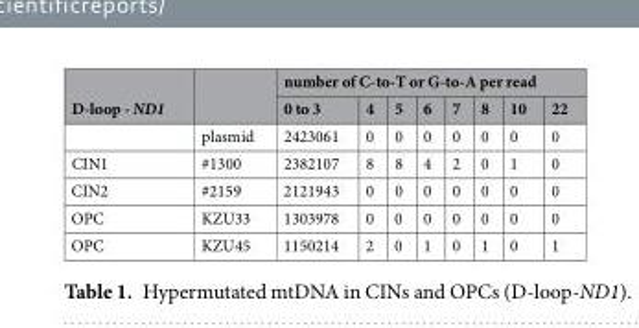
<table><thead><tr><td rowspan="2">D-loop - ND1</td><td rowspan="2"></td><td colspan="8">number of C-to-T or G-to-A per read</td></tr><tr><td>0 to 3</td><td>4</td><td>5</td><td>6</td><td>7</td><td>8</td><td>10</td><td>22</td></tr></thead><tbody><tr><td></td><td>plasmid</td><td>2423061</td><td>0</td><td>0</td><td>0</td><td>0</td><td>0</td><td>0</td><td>0</td></tr><tr><td>CIN1</td><td>#1300</td><td>2382107</td><td>8</td><td>8</td><td>4</td><td>2</td><td>0</td><td>1</td><td>0</td></tr><tr><td>CIN2</td><td>#2159</td><td>2121943</td><td>0</td><td>0</td><td>0</td><td>0</td><td>0</td><td>0</td><td>0</td></tr><tr><td>OPC</td><td>KZU33</td><td>1303978</td><td>0</td><td>0</td><td>0</td><td>0</td><td>0</td><td>0</td><td>0</td></tr><tr><td>OPC</td><td>KZU45</td><td>1150214</td><td>2</td><td>0</td><td>1</td><td>0</td><td>1</td><td>0</td><td>1</td></tr></tbody></table>